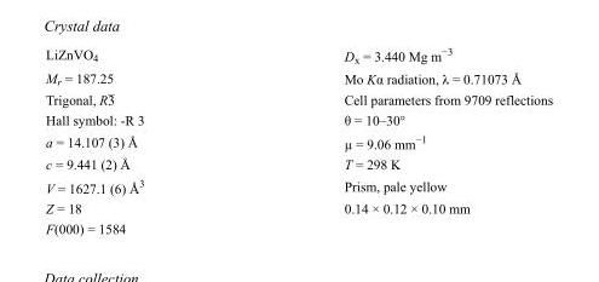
<table><tbody><tr><td>LiZnVO<sub>4</sub></td><td>D<sub>x</sub> = 3.440 Mg m<sup>−3</sup></td></tr><tr><td>M<sub>r</sub> = 187.25</td><td>Mo Kα radiation, λ = 0.71073 Å</td></tr><tr><td>Trigonal, R3</td><td>Cell parameters from 9709 reflections</td></tr><tr><td>Hall symbol: -R 3</td><td>θ = 10–30°</td></tr><tr><td>a = 14.107 (3) Å</td><td>µ = 9.06 mm<sup>−1</sup></td></tr><tr><td>c = 9.441 (2) Å</td><td>T = 298 K</td></tr><tr><td>V = 1627.1 (6) Å<sup>3</sup></td><td>Prism, pale yellow</td></tr><tr><td>Z = 18</td><td>0.14 × 0.12 × 0.10 mm</td></tr><tr><td>F(000) = 1584</td><td></td></tr></tbody></table>